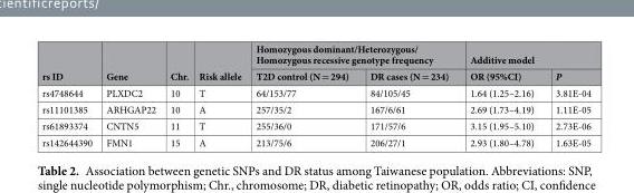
<table><thead><tr><td rowspan="2">rs ID</td><td rowspan="2">Gene</td><td rowspan="2">Chr.</td><td rowspan="2">Risk allele</td><td colspan="2">Homozygous dominant/Heterozygous/ Homozygous recessive genotype frequency</td><td colspan="2">Additive model</td></tr><tr><td>T2D control (N = 294)</td><td>DR cases (N = 234)</td><td>OR (95%CI)</td><td>P</td></tr></thead><tbody><tr><td>rs4748644</td><td>PLXDC2</td><td>10</td><td>T</td><td>64/153/77</td><td>84/105/45</td><td>1.64 (1.25–2.16)</td><td>3.81E-04</td></tr><tr><td>rs11101385</td><td>ARHGAP22</td><td>10</td><td>A</td><td>257/35/2</td><td>167/6/61</td><td>2.69 (1.73–4.19)</td><td>1.11E-05</td></tr><tr><td>rs61893374</td><td>CNTN5</td><td>11</td><td>T</td><td>255/36/0</td><td>171/57/6</td><td>3.15 (1.95–5.10)</td><td>2.73E-06</td></tr><tr><td>rs142644390</td><td>FMN1</td><td>15</td><td>A</td><td>213/75/6</td><td>206/27/1</td><td>2.93 (1.80–4.78)</td><td>1.63E-05</td></tr></tbody></table>